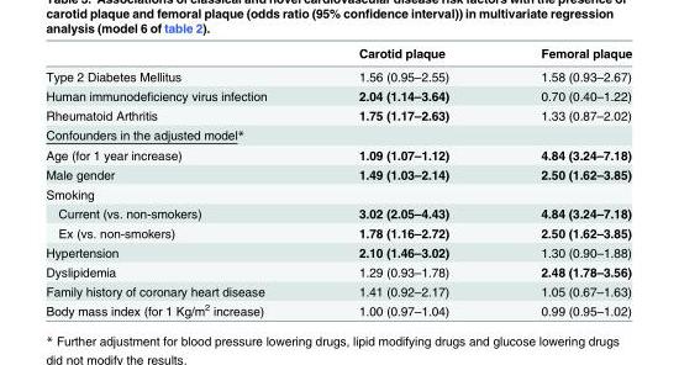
<table><thead><tr><td></td><td>Carotid plaque</td><td>Femoral plaque</td></tr></thead><tbody><tr><td>Type 2 Diabetes Mellitus</td><td>1.56 (0.95–2.55)</td><td>1.58 (0.93–2.67)</td></tr><tr><td>Human immunodeficiency virus infection</td><td>2.04 (1.14–3.64)</td><td>0.70 (0.40–1.22)</td></tr><tr><td>Rheumatoid Arthritis</td><td>1.75 (1.17–2.63)</td><td>1.33 (0.87–2.02)</td></tr><tr><td colspan="3">Confounders in the adjusted model*</td></tr><tr><td>Age (for 1 year increase)</td><td>1.09 (1.07–1.12)</td><td>4.84 (3.24–7.18)</td></tr><tr><td>Male gender</td><td>1.49 (1.03–2.14)</td><td>2.50 (1.62–3.85)</td></tr><tr><td colspan="3">Smoking</td></tr><tr><td>Current (vs. non-smokers)</td><td>3.02 (2.05–4.43)</td><td>4.84 (3.24–7.18)</td></tr><tr><td>Ex (vs. non-smokers)</td><td>1.78 (1.16–2.72)</td><td>2.50 (1.62–3.85)</td></tr><tr><td>Hypertension</td><td>2.10 (1.46–3.02)</td><td>1.30 (0.90–1.88)</td></tr><tr><td>Dyslipidemia</td><td>1.29 (0.93–1.78)</td><td>2.48 (1.78–3.56)</td></tr><tr><td>Family history of coronary heart disease</td><td>1.41 (0.92–2.17)</td><td>1.05 (0.67–1.63)</td></tr><tr><td>Body mass index (for 1 Kg/m<sup>2</sup> increase)</td><td>1.00 (0.97–1.04)</td><td>0.99 (0.95–1.02)</td></tr></tbody></table>